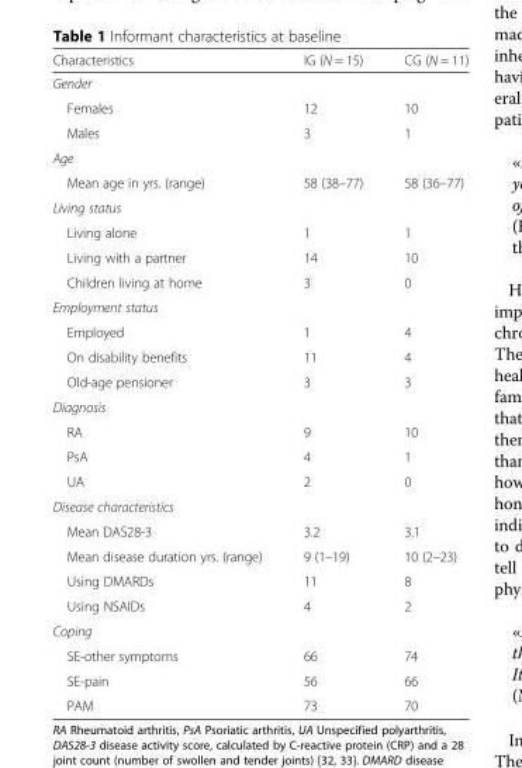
<table><thead><tr><td>Characteristics</td><td>IG (N = 15)</td><td>CG (N = 11)</td></tr></thead><tbody><tr><td colspan="3">Gender</td></tr><tr><td>Females</td><td>12</td><td>10</td></tr><tr><td>Males</td><td>3</td><td>1</td></tr><tr><td colspan="3">Age</td></tr><tr><td>Mean age in yrs. (range)</td><td>58 (38–77)</td><td>58 (36–77)</td></tr><tr><td colspan="3">Living status</td></tr><tr><td>Living alone</td><td>1</td><td>1</td></tr><tr><td>Living with a partner</td><td>14</td><td>10</td></tr><tr><td>Children living at home</td><td>3</td><td>0</td></tr><tr><td colspan="3">Employment status</td></tr><tr><td>Employed</td><td>1</td><td>4</td></tr><tr><td>On disability benefits</td><td>11</td><td>4</td></tr><tr><td>Old-age pensioner</td><td>3</td><td>3</td></tr><tr><td colspan="3">Diagnosis</td></tr><tr><td>RA</td><td>9</td><td>10</td></tr><tr><td>PsA</td><td>4</td><td>1</td></tr><tr><td>UA</td><td>2</td><td>0</td></tr><tr><td colspan="3">Disease characteristics</td></tr><tr><td>Mean DAS28-3</td><td>3.2</td><td>3.1</td></tr><tr><td>Mean disease duration yrs. (range)</td><td>9 (1–19)</td><td>10 (2–23)</td></tr><tr><td>Using DMARDs</td><td>11</td><td>8</td></tr><tr><td>Using NSAIDs</td><td>4</td><td>2</td></tr><tr><td colspan="3">Coping</td></tr><tr><td>SE-other symptoms</td><td>66</td><td>74</td></tr><tr><td>SE-pain</td><td>56</td><td>66</td></tr><tr><td>PAM</td><td>73</td><td>70</td></tr></tbody></table>